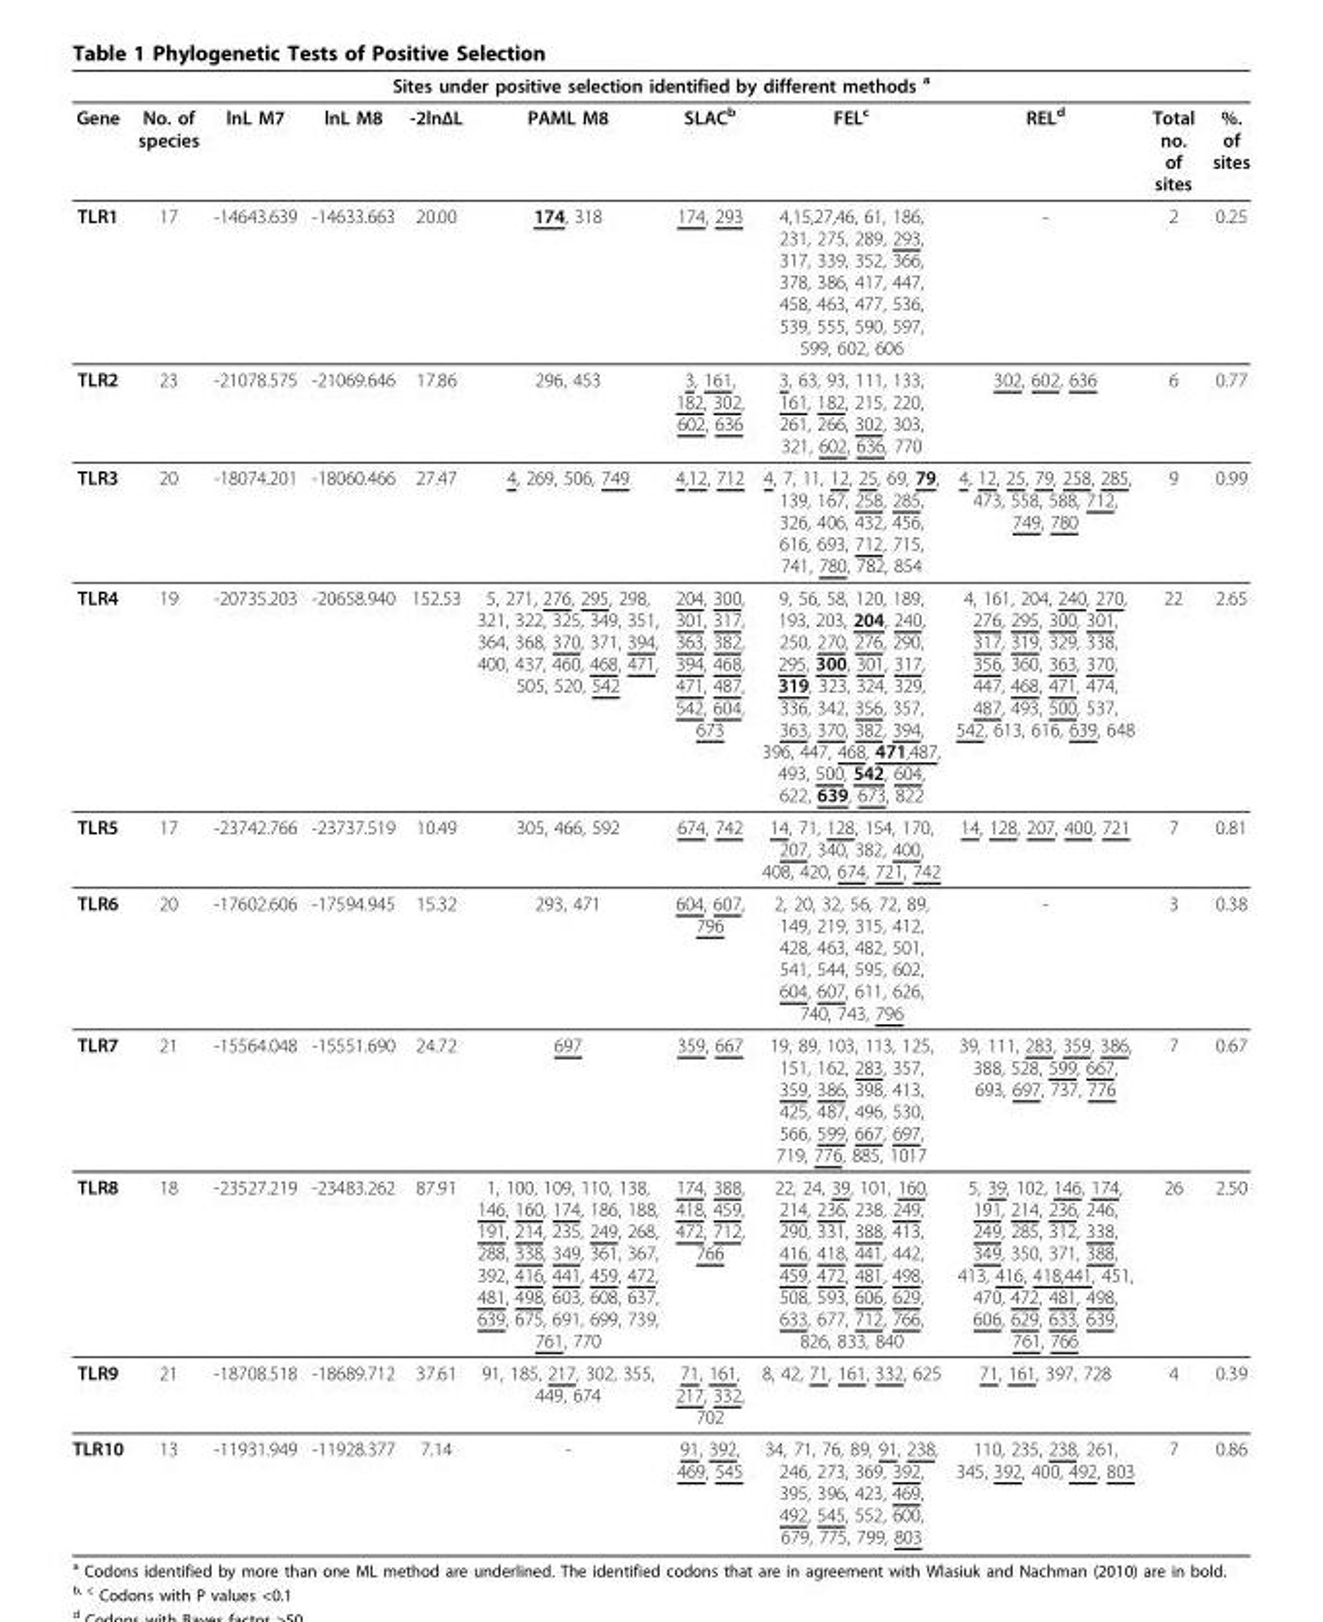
<table><thead><tr><td colspan="11">Sites under positive selection identified by different methods <sup>a</sup></td></tr><tr><td>Gene</td><td>No. of species</td><td>lnL M7</td><td>lnL M8</td><td>-2lnΔL</td><td>PAML M8</td><td>SLAC<sup>b</sup></td><td>FEL<sup>c</sup></td><td>REL<sup>d</sup></td><td>Total no. of sites</td><td>%. of sites</td></tr></thead><tbody><tr><td>TLR1</td><td>17</td><td>-14643.639</td><td>-14633.663</td><td>20.00</td><td>174, 318</td><td>174, 293</td><td>4,15,27,46, 61, 186, 231, 275, 289, 293, 317, 339, 352, 366, 378, 386, 417, 447, 458, 463, 477, 536, 539, 555, 590, 597, 599, 602, 606</td><td>-</td><td>2</td><td>0.25</td></tr><tr><td>TLR2</td><td>23</td><td>-21078.575</td><td>-21069.646</td><td>17.86</td><td>296, 453</td><td>3, 161, 182, 302, 602, 636</td><td>3, 63, 93, 111, 133, 161, 182, 215, 220, 261, 266, 302, 303, 321, 602, 636, 770</td><td>302, 602, 636</td><td>6</td><td>0.77</td></tr><tr><td>TLR3</td><td>20</td><td>-18074.201</td><td>-18060.466</td><td>27.47</td><td>4, 269, 506, 749</td><td>4,12, 712</td><td>4, 7, 11, 12, 25, 69, 79, 139, 167, 258, 285, 326, 406, 432, 456, 616, 693, 712, 715, 741, 780, 782, 854</td><td>4, 12, 25, 79, 258, 285, 473, 558, 588, 712, 749, 780</td><td>9</td><td>0.99</td></tr><tr><td>TLR4</td><td>19</td><td>-20735.203</td><td>-20658.940</td><td>152.53</td><td>5, 271, 276, 295, 298, 321, 322, 325, 349, 351, 364, 368, 370, 371, 394, 400, 437, 460, 468, 471, 505, 520, 542</td><td>204, 300, 301, 317, 363, 382, 394, 468, 471, 487, 542, 604, 673</td><td>9, 56, 58, 120, 189, 193, 203, 204, 240, 250, 270, 276, 290, 295, 300, 301, 317, 319, 323, 324, 329, 336, 342, 356, 357, 363, 370, 382, 394, 396, 447, 468, 471,487, 493, 500, 542, 604, 622, 639, 673, 822</td><td>4, 161, 204, 240, 270, 276, 295, 300, 301, 317, 319, 329, 338, 356, 360, 363, 370, 447, 468, 471, 474, 487, 493, 500, 537, 542, 613, 616, 639, 648</td><td>22</td><td>2.65</td></tr><tr><td>TLR5</td><td>17</td><td>-23742.766</td><td>-23737.519</td><td>10.49</td><td>305, 466, 592</td><td>674, 742</td><td>14, 71, 128, 154, 170, 207, 340, 382, 400, 408, 420, 674, 721, 742</td><td>14, 128, 207, 400, 721</td><td>7</td><td>0.81</td></tr><tr><td>TLR6</td><td>20</td><td>-17602.606</td><td>-17594.945</td><td>15.32</td><td>293, 471</td><td>604, 607, 796</td><td>2, 20, 32, 56, 72, 89, 149, 219, 315, 412, 428, 463, 482, 501, 541, 544, 595, 602, 604, 607, 611, 626, 740, 743, 796</td><td>-</td><td>3</td><td>0.38</td></tr><tr><td>TLR7</td><td>21</td><td>-15564.048</td><td>-15551.690</td><td>24.72</td><td>697</td><td>359, 667</td><td>19, 89, 103, 113, 125, 151, 162, 283, 357, 359, 386, 398, 413, 425, 487, 496, 530, 566, 599, 667, 697, 719, 776, 885, 1017</td><td>39, 111, 283, 359, 386, 388, 528, 599, 667, 693, 697, 737, 776</td><td>7</td><td>0.67</td></tr><tr><td>TLR8</td><td>18</td><td>-23527.219</td><td>-23483.262</td><td>87.91</td><td>1, 100, 109, 110, 138, 146, 160, 174, 186, 188, 191, 214, 235, 249, 268, 288, 338, 349, 361, 367, 392, 416, 441, 459, 472, 481, 498, 603, 608, 637, 639, 675, 691, 699, 739, 761, 770</td><td>174, 388, 418, 459, 472, 712, 766</td><td>22, 24, 39, 101, 160, 214, 236, 238, 249, 290, 331, 388, 413, 416, 418, 441, 442, 459, 472, 481, 498, 508, 593, 606, 629, 633, 677, 712, 766, 826, 833, 840</td><td>5, 39, 102, 146, 174, 191, 214, 236, 246, 249, 285, 312, 338, 349, 350, 371, 388, 413, 416, 418,441, 451, 470, 472, 481, 498, 606, 629, 633, 639, 761, 766</td><td>26</td><td>2.50</td></tr><tr><td>TLR9</td><td>21</td><td>-18708.518</td><td>-18689.712</td><td>37.61</td><td>91, 185, 217, 302, 355, 449, 674</td><td>71, 161, 217, 332, 702</td><td>8, 42, 71, 161, 332, 625</td><td>71, 161, 397, 728</td><td>4</td><td>0.39</td></tr><tr><td>TLR10</td><td>13</td><td>-11931.949</td><td>-11928.377</td><td>7.14</td><td>-</td><td>91, 392, 469, 545</td><td>34, 71, 76, 89, 91, 238, 246, 273, 369, 392, 395, 396, 423, 469, 492, 545, 552, 600, 679, 775, 799, 803</td><td>110, 235, 238, 261, 345, 392, 400, 492, 803</td><td>7</td><td>0.86</td></tr></tbody></table>